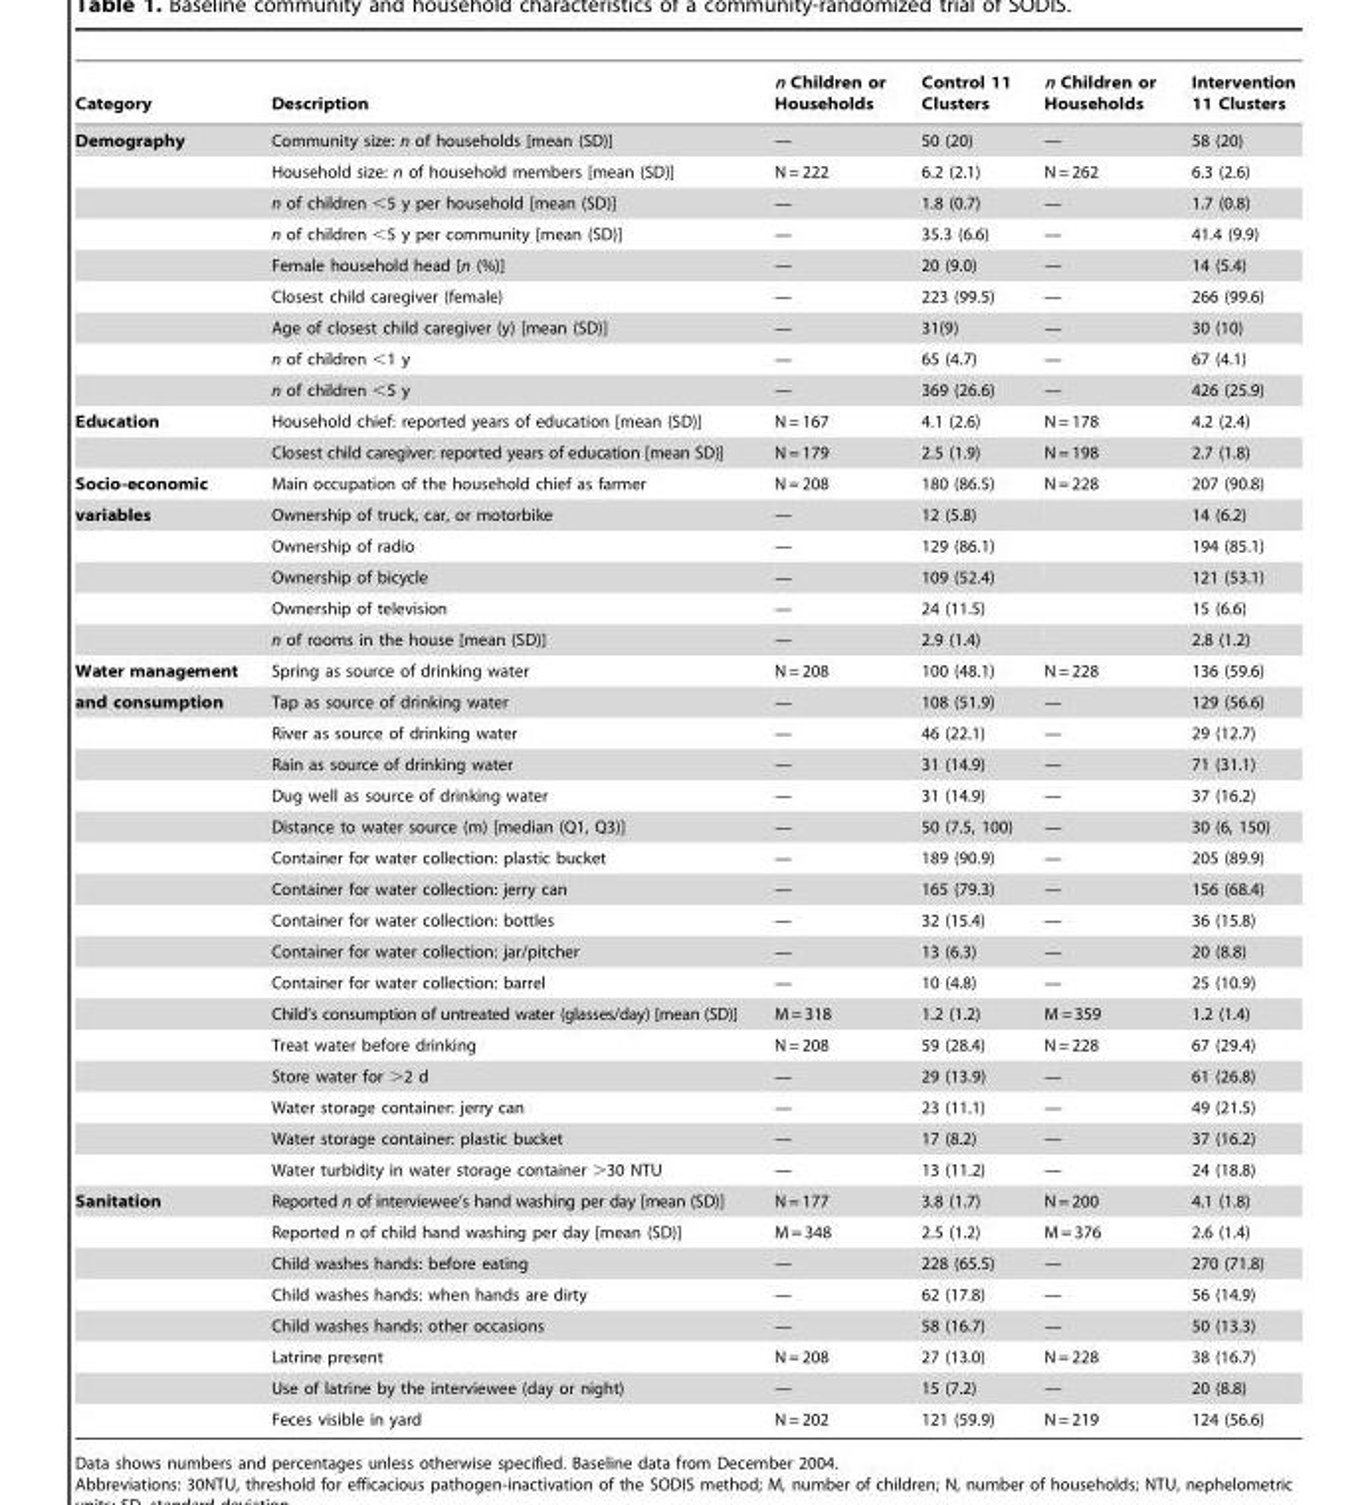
<table><thead><tr><td>Category</td><td>Description</td><td>n Children or Households</td><td>Control 11 Clusters</td><td>n Children or Households</td><td>Intervention 11 Clusters</td></tr></thead><tbody><tr><td rowspan="9">Demography</td><td>Community size: n of households [mean (SD)]</td><td>—</td><td>50 (20)</td><td>—</td><td>58 (20)</td></tr><tr><td>Household size: n of household members [mean (SD)]</td><td>N = 222</td><td>6.2 (2.1)</td><td>N = 262</td><td>6.3 (2.6)</td></tr><tr><td>n of children &lt;5 y per household [mean (SD)]</td><td>—</td><td>1.8 (0.7)</td><td>—</td><td>1.7 (0.8)</td></tr><tr><td>n of children &lt;5 y per community [mean (SD)]</td><td>—</td><td>35.3 (6.6)</td><td>—</td><td>41.4 (9.9)</td></tr><tr><td>Female household head [n (%)]</td><td>—</td><td>20 (9.0)</td><td>—</td><td>14 (5.4)</td></tr><tr><td>Closest child caregiver (female)</td><td>—</td><td>223 (99.5)</td><td>—</td><td>266 (99.6)</td></tr><tr><td>Age of closest child caregiver (y) [mean (SD)]</td><td>—</td><td>31(9)</td><td>—</td><td>30 (10)</td></tr><tr><td>n of children &lt;1 y</td><td>—</td><td>65 (4.7)</td><td>—</td><td>67 (4.1)</td></tr><tr><td>n of children &lt;5 y</td><td>—</td><td>369 (26.6)</td><td>—</td><td>426 (25.9)</td></tr><tr><td rowspan="2">Education</td><td>Household chief: reported years of education [mean (SD)]</td><td>N = 167</td><td>4.1 (2.6)</td><td>N = 178</td><td>4.2 (2.4)</td></tr><tr><td>Closest child caregiver: reported years of education [mean SD)]</td><td>N = 179</td><td>2.5 (1.9)</td><td>N = 198</td><td>2.7 (1.8)</td></tr><tr><td>Socio-economic</td><td>Main occupation of the household chief as farmer</td><td>N = 208</td><td>180 (86.5)</td><td>N = 228</td><td>207 (90.8)</td></tr><tr><td rowspan="5">variables</td><td>Ownership of truck, car, or motorbike</td><td>—</td><td>12 (5.8)</td><td></td><td>14 (6.2)</td></tr><tr><td>Ownership of radio</td><td>—</td><td>129 (86.1)</td><td></td><td>194 (85.1)</td></tr><tr><td>Ownership of bicycle</td><td>—</td><td>109 (52.4)</td><td></td><td>121 (53.1)</td></tr><tr><td>Ownership of television</td><td>—</td><td>24 (11.5)</td><td></td><td>15 (6.6)</td></tr><tr><td>n of rooms in the house [mean (SD)]</td><td>—</td><td>2.9 (1.4)</td><td></td><td>2.8 (1.2)</td></tr><tr><td>Water management</td><td>Spring as source of drinking water</td><td>N = 208</td><td>100 (48.1)</td><td>N = 228</td><td>136 (59.6)</td></tr><tr><td rowspan="16">and consumption</td><td>Tap as source of drinking water</td><td>—</td><td>108 (51.9)</td><td>—</td><td>129 (56.6)</td></tr><tr><td>River as source of drinking water</td><td>—</td><td>46 (22.1)</td><td>—</td><td>29 (12.7)</td></tr><tr><td>Rain as source of drinking water</td><td>—</td><td>31 (14.9)</td><td>—</td><td>71 (31.1)</td></tr><tr><td>Dug well as source of drinking water</td><td>—</td><td>31 (14.9)</td><td>—</td><td>37 (16.2)</td></tr><tr><td>Distance to water source (m) [median (Q1, Q3)]</td><td>—</td><td>50 (7.5, 100)</td><td>—</td><td>30 (6, 150)</td></tr><tr><td>Container for water collection: plastic bucket</td><td>—</td><td>189 (90.9)</td><td>—</td><td>205 (89.9)</td></tr><tr><td>Container for water collection: jerry can</td><td>—</td><td>165 (79.3)</td><td>—</td><td>156 (68.4)</td></tr><tr><td>Container for water collection: bottles</td><td>—</td><td>32 (15.4)</td><td>—</td><td>36 (15.8)</td></tr><tr><td>Container for water collection: jar/pitcher</td><td>—</td><td>13 (6.3)</td><td>—</td><td>20 (8.8)</td></tr><tr><td>Container for water collection: barrel</td><td>—</td><td>10 (4.8)</td><td>—</td><td>25 (10.9)</td></tr><tr><td>Child’s consumption of untreated water (glasses/day) [mean (SD)]</td><td>M = 318</td><td>1.2 (1.2)</td><td>M = 359</td><td>1.2 (1.4)</td></tr><tr><td>Treat water before drinking</td><td>N = 208</td><td>59 (28.4)</td><td>N = 228</td><td>67 (29.4)</td></tr><tr><td>Store water for &gt;2 d</td><td>—</td><td>29 (13.9)</td><td>—</td><td>61 (26.8)</td></tr><tr><td>Water storage container: jerry can</td><td>—</td><td>23 (11.1)</td><td>—</td><td>49 (21.5)</td></tr><tr><td>Water storage container: plastic bucket</td><td>—</td><td>17 (8.2)</td><td>—</td><td>37 (16.2)</td></tr><tr><td>Water turbidity in water storage container &gt;30 NTU</td><td>—</td><td>13 (11.2)</td><td>—</td><td>24 (18.8)</td></tr><tr><td rowspan="8">Sanitation</td><td>Reported n of interviewee’s hand washing per day [mean (SD)]</td><td>N = 177</td><td>3.8 (1.7)</td><td>N = 200</td><td>4.1 (1.8)</td></tr><tr><td>Reported n of child hand washing per day [mean (SD)]</td><td>M = 348</td><td>2.5 (1.2)</td><td>M = 376</td><td>2.6 (1.4)</td></tr><tr><td>Child washes hands: before eating</td><td>—</td><td>228 (65.5)</td><td>—</td><td>270 (71.8)</td></tr><tr><td>Child washes hands: when hands are dirty</td><td>—</td><td>62 (17.8)</td><td>—</td><td>56 (14.9)</td></tr><tr><td>Child washes hands: other occasions</td><td>—</td><td>58 (16.7)</td><td>—</td><td>50 (13.3)</td></tr><tr><td>Latrine present</td><td>N = 208</td><td>27 (13.0)</td><td>N = 228</td><td>38 (16.7)</td></tr><tr><td>Use of latrine by the interviewee (day or night)</td><td>—</td><td>15 (7.2)</td><td>—</td><td>20 (8.8)</td></tr><tr><td>Feces visible in yard</td><td>N = 202</td><td>121 (59.9)</td><td>N = 219</td><td>124 (56.6)</td></tr></tbody></table>